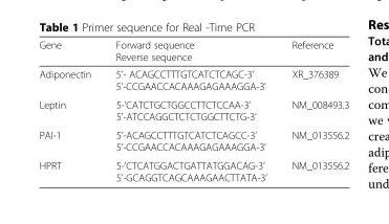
<table><thead><tr><td>Gene</td><td>Forward sequence Reverse sequence</td><td>Reference</td></tr></thead><tbody><tr><td>Adiponectin</td><td>5’- ACAGCCTTTGTCATCTCAGC-3’ 5’-CCGAACCACAAAGAGAAAGGA-3’</td><td>XR_376389</td></tr><tr><td>Leptin</td><td>5-’CATCTGCTGGCCTTCTCCAA-3’ 5&#x27;-ATCCAGGCTCTCTGGCTTCTG-3’</td><td>NM_008493.3</td></tr><tr><td>PAI-1</td><td>5’-ACAGCCTTTGTCATCTCAGCC-3’ 5’-CCGAACCACAAAGAGAAAGGA-3’</td><td>NM_013556.2</td></tr><tr><td>HPRT</td><td>5-’CTCATGGACTGATTATGGACAG-3’ 5’-GCAGGTCAGCAAAGAACTTATA-3’</td><td>NM_013556.2</td></tr></tbody></table>